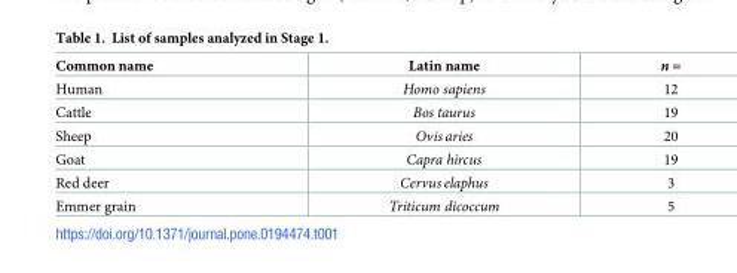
<table><thead><tr><td>Common name</td><td>Latin name</td><td>n =</td></tr></thead><tbody><tr><td>Human</td><td>Homo sapiens</td><td>12</td></tr><tr><td>Cattle</td><td>Bos taurus</td><td>19</td></tr><tr><td>Sheep</td><td>Ovis aries</td><td>20</td></tr><tr><td>Goat</td><td>Capra hircus</td><td>19</td></tr><tr><td>Red deer</td><td>Cervus elaphus</td><td>3</td></tr><tr><td>Emmer grain</td><td>Triticum dicoccum</td><td>5</td></tr></tbody></table>